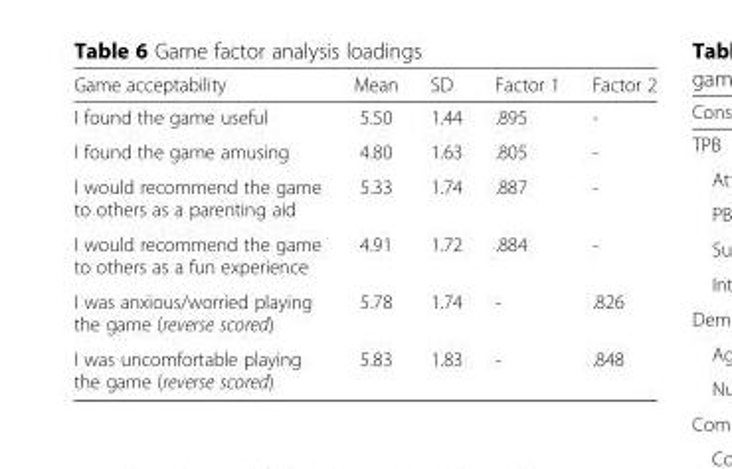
<table><thead><tr><td>Game acceptability</td><td>Mean</td><td>SD</td><td>Factor 1</td><td>Factor 2</td></tr></thead><tbody><tr><td>I found the game useful</td><td>5.50</td><td>1.44</td><td>.895</td><td>-</td></tr><tr><td>I found the game amusing</td><td>4.80</td><td>1.63</td><td>.805</td><td>-</td></tr><tr><td>I would recommend the game to others as a parenting aid</td><td>5.33</td><td>1.74</td><td>.887</td><td>-</td></tr><tr><td>I would recommend the game to others as a fun experience</td><td>4.91</td><td>1.72</td><td>.884</td><td>-</td></tr><tr><td>I was anxious/worried playing the game (reverse scored)</td><td>5.78</td><td>1.74</td><td>-</td><td>.826</td></tr><tr><td>I was uncomfortable playing the game (reverse scored)</td><td>5.83</td><td>1.83</td><td>-</td><td>.848</td></tr></tbody></table>